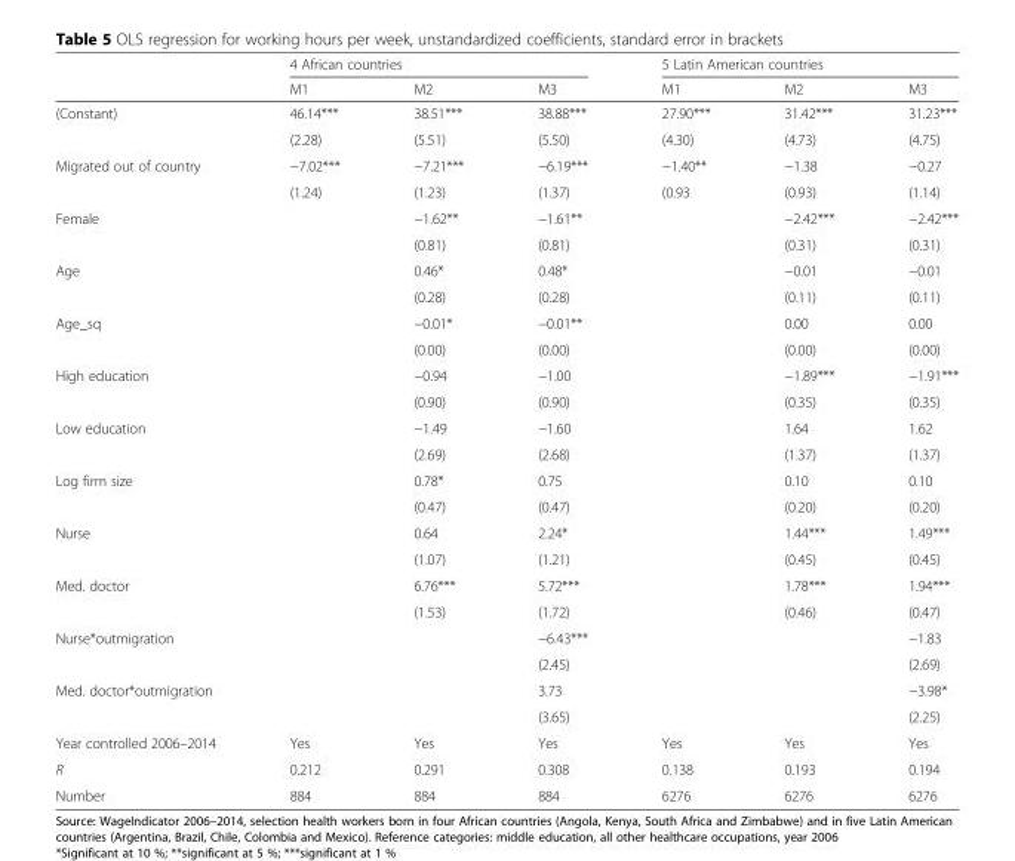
<table><thead><tr><td rowspan="2"></td><td colspan="3">4 African countries</td><td colspan="3">5 Latin American countries</td></tr><tr><td>M1</td><td>M2</td><td>M3</td><td>M1</td><td>M2</td><td>M3</td></tr></thead><tbody><tr><td rowspan="2">(Constant)</td><td>46.14***</td><td>38.51***</td><td>38.88***</td><td>27.90***</td><td>31.42***</td><td>31.23***</td></tr><tr><td>(2.28)</td><td>(5.51)</td><td>(5.50)</td><td>(4.30)</td><td>(4.73)</td><td>(4.75)</td></tr><tr><td rowspan="2">Migrated out of country</td><td>−7.02***</td><td>−7.21***</td><td>−6.19***</td><td>−1.40**</td><td>−1.38</td><td>−0.27</td></tr><tr><td>(1.24)</td><td>(1.23)</td><td>(1.37)</td><td>(0.93</td><td>(0.93)</td><td>(1.14)</td></tr><tr><td rowspan="2">Female</td><td></td><td>−1.62**</td><td>−1.61**</td><td></td><td>−2.42***</td><td>−2.42***</td></tr><tr><td></td><td>(0.81)</td><td>(0.81)</td><td></td><td>(0.31)</td><td>(0.31)</td></tr><tr><td rowspan="2">Age</td><td></td><td>0.46*</td><td>0.48*</td><td></td><td>−0.01</td><td>−0.01</td></tr><tr><td></td><td>(0.28)</td><td>(0.28)</td><td></td><td>(0.11)</td><td>(0.11)</td></tr><tr><td rowspan="2">Age_sq</td><td></td><td>−0.01*</td><td>−0.01**</td><td></td><td>0.00</td><td>0.00</td></tr><tr><td></td><td>(0.00)</td><td>(0.00)</td><td></td><td>(0.00)</td><td>(0.00)</td></tr><tr><td rowspan="2">High education</td><td></td><td>−0.94</td><td>−1.00</td><td></td><td>−1.89***</td><td>−1.91***</td></tr><tr><td></td><td>(0.90)</td><td>(0.90)</td><td></td><td>(0.35)</td><td>(0.35)</td></tr><tr><td rowspan="2">Low education</td><td></td><td>−1.49</td><td>−1.60</td><td></td><td>1.64</td><td>1.62</td></tr><tr><td></td><td>(2.69)</td><td>(2.68)</td><td></td><td>(1.37)</td><td>(1.37)</td></tr><tr><td rowspan="2">Log firm size</td><td></td><td>0.78*</td><td>0.75</td><td></td><td>0.10</td><td>0.10</td></tr><tr><td></td><td>(0.47)</td><td>(0.47)</td><td></td><td>(0.20)</td><td>(0.20)</td></tr><tr><td rowspan="2">Nurse</td><td></td><td>0.64</td><td>2.24*</td><td></td><td>1.44***</td><td>1.49***</td></tr><tr><td></td><td>(1.07)</td><td>(1.21)</td><td></td><td>(0.45)</td><td>(0.45)</td></tr><tr><td rowspan="2">Med. doctor</td><td></td><td>6.76***</td><td>5.72***</td><td></td><td>1.78***</td><td>1.94***</td></tr><tr><td></td><td>(1.53)</td><td>(1.72)</td><td></td><td>(0.46)</td><td>(0.47)</td></tr><tr><td rowspan="2">Nurse*outmigration</td><td></td><td></td><td>−6.43***</td><td></td><td></td><td>−1.83</td></tr><tr><td></td><td></td><td>(2.45)</td><td></td><td></td><td>(2.69)</td></tr><tr><td rowspan="2">Med. doctor*outmigration</td><td></td><td></td><td>3.73</td><td></td><td></td><td>−3.98*</td></tr><tr><td></td><td></td><td>(3.65)</td><td></td><td></td><td>(2.25)</td></tr><tr><td>Year controlled 2006–2014</td><td>Yes</td><td>Yes</td><td>Yes</td><td>Yes</td><td>Yes</td><td>Yes</td></tr><tr><td>R</td><td>0.212</td><td>0.291</td><td>0.308</td><td>0.138</td><td>0.193</td><td>0.194</td></tr><tr><td>Number</td><td>884</td><td>884</td><td>884</td><td>6276</td><td>6276</td><td>6276</td></tr></tbody></table>